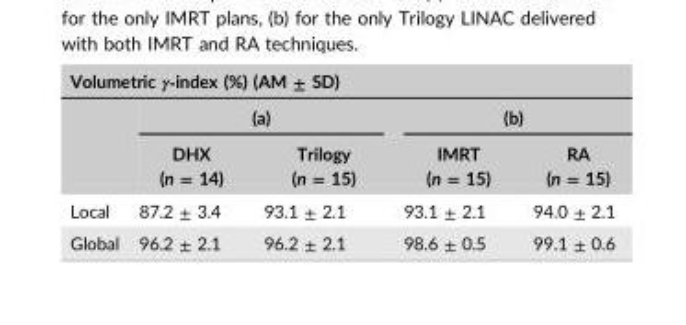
<table><thead><tr><td colspan="5">Volumetric γ‐index (%) (AM ± SD)</td></tr><tr><td rowspan="2"></td><td colspan="2">(a)</td><td colspan="2">(b)</td></tr><tr><td>DHX (n = 14)</td><td>Trilogy (n = 15)</td><td>IMRT (n = 15)</td><td>RA (n = 15)</td></tr></thead><tbody><tr><td>Local</td><td>87.2 ± 3.4</td><td>93.1 ± 2.1</td><td>93.1 ± 2.1</td><td>94.0 ± 2.1</td></tr><tr><td>Global</td><td>96.2 ± 2.1</td><td>96.2 ± 2.1</td><td>98.6 ± 0.5</td><td>99.1 ± 0.6</td></tr></tbody></table>